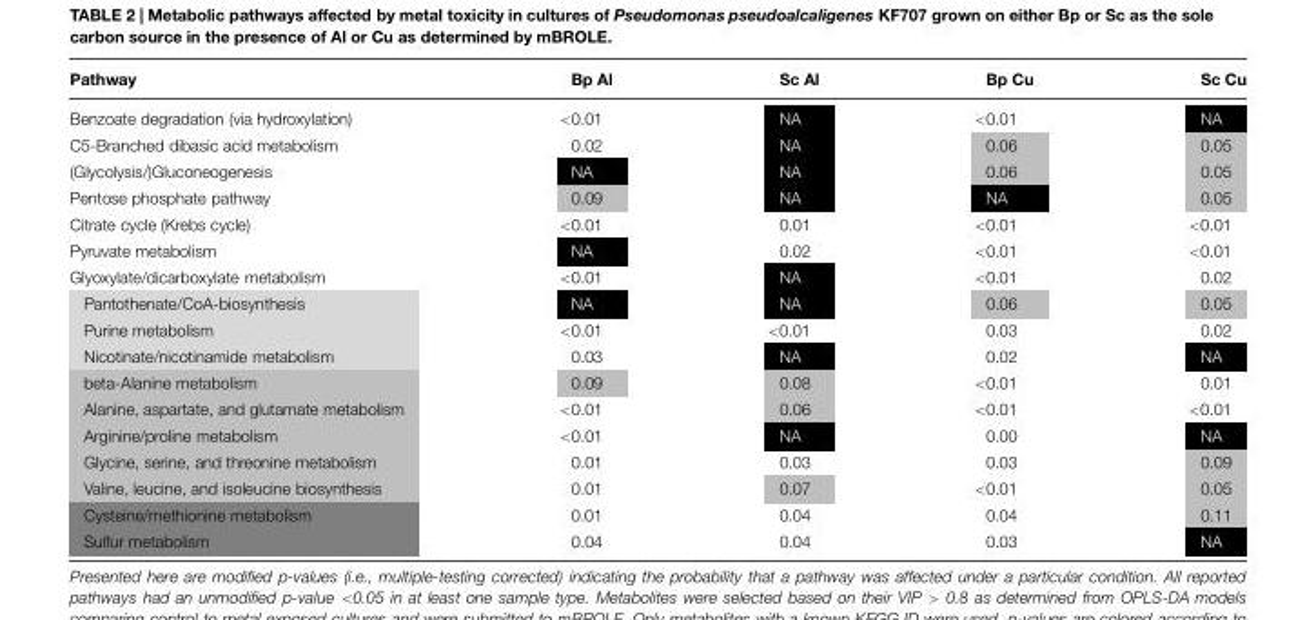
<table><thead><tr><td>Pathway</td><td>Bp Al</td><td>Sc Al</td><td>Bp Cu</td><td>Sc Cu</td></tr></thead><tbody><tr><td>Benzoate degradation (via hydroxylation)</td><td>&lt;0.01</td><td>NA</td><td>&lt;0.01</td><td>NA</td></tr><tr><td>C5-Branched dibasic acid metabolism</td><td>0.02</td><td>NA</td><td>0.06</td><td>0.05</td></tr><tr><td>(Glycolysis/)Gluconeogenesis</td><td>NA</td><td>NA</td><td>0.06</td><td>0.05</td></tr><tr><td>Pentose phosphate pathway</td><td>0.09</td><td>NA</td><td>NA</td><td>0.05</td></tr><tr><td>Citrate cycle (Krebs cycle)</td><td>&lt;0.01</td><td>0.01</td><td>&lt;0.01</td><td>&lt;0.01</td></tr><tr><td>Pyruvate metabolism</td><td>NA</td><td>0.02</td><td>&lt;0.01</td><td>&lt;0.01</td></tr><tr><td>Glyoxylate/dicarboxylate metabolism</td><td>&lt;0.01</td><td>NA</td><td>&lt;0.01</td><td>0.02</td></tr><tr><td>Pantothenate/CoA-biosynthesis</td><td>NA</td><td>NA</td><td>0.06</td><td>0.05</td></tr><tr><td>Purine metabolism</td><td>&lt;0.01</td><td>&lt;0.01</td><td>0.03</td><td>0.02</td></tr><tr><td>Nicotinate/nicotinamide metabolism</td><td>0.03</td><td>NA</td><td>0.02</td><td>NA</td></tr><tr><td>beta-Alanine metabolism</td><td>0.09</td><td>0.08</td><td>&lt;0.01</td><td>0.01</td></tr><tr><td>Alanine, aspartate, and glutamate metabolism</td><td>&lt;0.01</td><td>0.06</td><td>&lt;0.01</td><td>&lt;0.01</td></tr><tr><td>Arginine/proline metabolism</td><td>&lt;0.01</td><td>NA</td><td>0.00</td><td>NA</td></tr><tr><td>Glycine, serine, and threonine metabolism</td><td>0.01</td><td>0.03</td><td>0.03</td><td>0.09</td></tr><tr><td>Valine, leucine, and isoleucine biosynthesis</td><td>0.01</td><td>0.07</td><td>&lt;0.01</td><td>0.05</td></tr><tr><td>Cysteine/methionine metabolism</td><td>0.01</td><td>0.04</td><td>0.04</td><td>0.11</td></tr><tr><td>Sulfur metabolism</td><td>0.04</td><td>0.04</td><td>0.03</td><td>NA</td></tr></tbody></table>